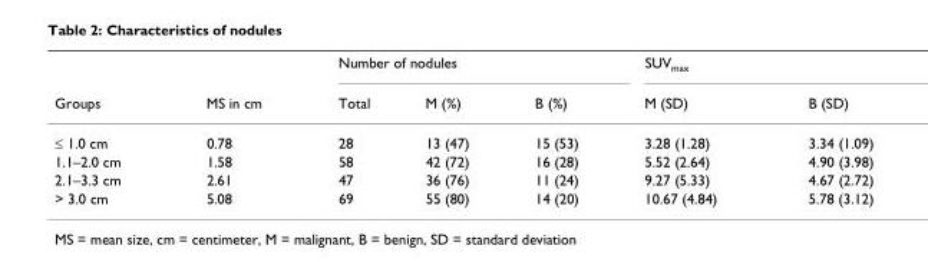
<table><thead><tr><td rowspan="2">Groups</td><td rowspan="2">MS in cm</td><td colspan="3">Number of nodules</td><td colspan="2">SUV<sub>max</sub></td></tr><tr><td>Total</td><td>M (%)</td><td>B (%)</td><td>M (SD)</td><td>B (SD)</td></tr></thead><tbody><tr><td>≤ 1.0 cm</td><td>0.78</td><td>28</td><td>13 (47)</td><td>15 (53)</td><td>3.28 (1.28)</td><td>3.34 (1.09)</td></tr><tr><td>1.1–2.0 cm</td><td>1.58</td><td>58</td><td>42 (72)</td><td>16 (28)</td><td>5.52 (2.64)</td><td>4.90 (3.98)</td></tr><tr><td>2.1–3.3 cm</td><td>2.61</td><td>47</td><td>36 (76)</td><td>11 (24)</td><td>9.27 (5.33)</td><td>4.67 (2.72)</td></tr><tr><td>&gt; 3.0 cm</td><td>5.08</td><td>69</td><td>55 (80)</td><td>14 (20)</td><td>10.67 (4.84)</td><td>5.78 (3.12)</td></tr></tbody></table>